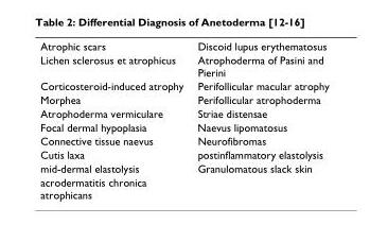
<table><tbody><tr><td>Atrophic scars</td><td>Discoid lupus erythematosus</td></tr><tr><td>Lichen sclerosus et atrophicus</td><td>Atrophoderma of Pasini and Pierini</td></tr><tr><td>Corticosteroid-induced atrophy</td><td>Perifollicular macular atrophy</td></tr><tr><td>Morphea</td><td>Perifollicular atrophoderma</td></tr><tr><td>Atrophoderma vermiculare</td><td>Striae distensae</td></tr><tr><td>Focal dermal hypoplasia</td><td>Naevus lipomatosus</td></tr><tr><td>Connective tissue naevus</td><td>Neurofibromas</td></tr><tr><td>Cutis laxa</td><td>postinflammatory elastolysis</td></tr><tr><td>mid-dermal elastolysis</td><td>Granulomatous slack skin</td></tr><tr><td>acrodermatitis chronica atrophicans</td><td></td></tr></tbody></table>